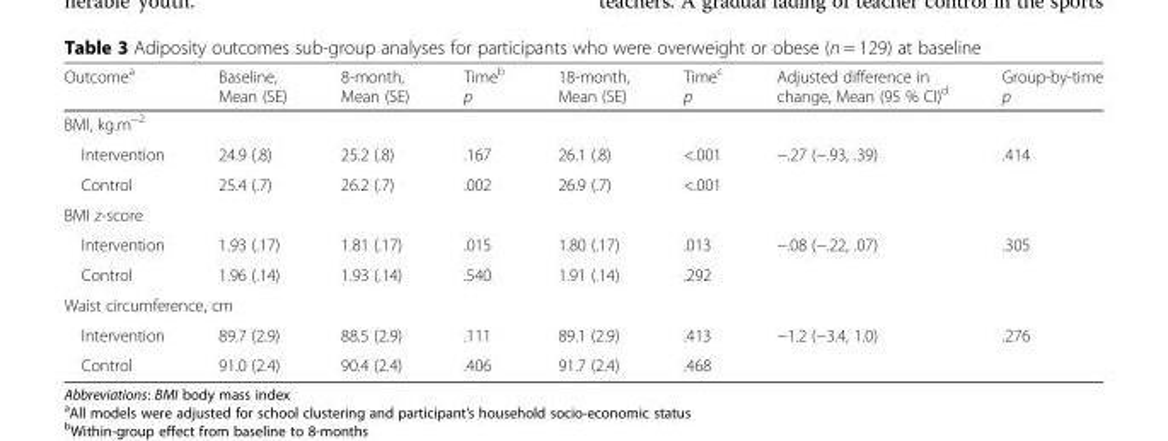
<table><thead><tr><td>Outcome<sup>a</sup></td><td>Baseline, Mean (SE)</td><td>8-month, Mean (SE)</td><td>Time<sup>b</sup> p</td><td>18-month, Mean (SE)</td><td>Time<sup>c</sup> p</td><td>Adjusted difference in change, Mean (95 % CI)<sup>d</sup></td><td>Group-by-time p</td></tr></thead><tbody><tr><td colspan="8">BMI, kg.m<sup>−2</sup></td></tr><tr><td>Intervention</td><td>24.9 (.8)</td><td>25.2 (.8)</td><td>.167</td><td>26.1 (.8)</td><td>&lt;.001</td><td>−.27 (−.93, .39)</td><td>.414</td></tr><tr><td>Control</td><td>25.4 (.7)</td><td>26.2 (.7)</td><td>.002</td><td>26.9 (.7)</td><td>&lt;.001</td><td></td><td></td></tr><tr><td colspan="8">BMI z-score</td></tr><tr><td>Intervention</td><td>1.93 (.17)</td><td>1.81 (.17)</td><td>.015</td><td>1.80 (.17)</td><td>.013</td><td>−.08 (−.22, .07)</td><td>.305</td></tr><tr><td>Control</td><td>1.96 (.14)</td><td>1.93 (.14)</td><td>.540</td><td>1.91 (.14)</td><td>.292</td><td></td><td></td></tr><tr><td colspan="8">Waist circumference, cm</td></tr><tr><td>Intervention</td><td>89.7 (2.9)</td><td>88.5 (2.9)</td><td>.111</td><td>89.1 (2.9)</td><td>.413</td><td>−1.2 (−3.4, 1.0)</td><td>.276</td></tr><tr><td>Control</td><td>91.0 (2.4)</td><td>90.4 (2.4)</td><td>.406</td><td>91.7 (2.4)</td><td>.468</td><td></td><td></td></tr></tbody></table>